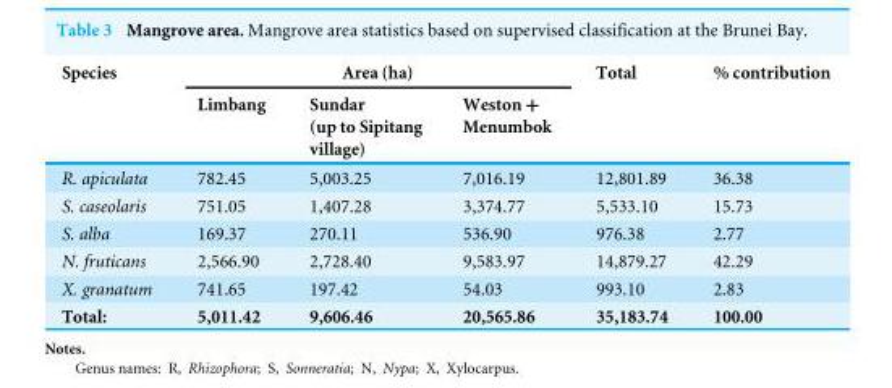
<table><thead><tr><td rowspan="2">Species</td><td colspan="3">Area (ha)</td><td rowspan="2">Total</td><td rowspan="2">% contribution</td></tr><tr><td>Limbang</td><td>Sundar (up to Sipitang village)</td><td>Weston + Menumbok</td></tr></thead><tbody><tr><td>R. apiculata</td><td>782.45</td><td>5,003.25</td><td>7,016.19</td><td>12,801.89</td><td>36.38</td></tr><tr><td>S. caseolaris</td><td>751.05</td><td>1,407.28</td><td>3,374.77</td><td>5,533.10</td><td>15.73</td></tr><tr><td>S. alba</td><td>169.37</td><td>270.11</td><td>536.90</td><td>976.38</td><td>2.77</td></tr><tr><td>N. fruticans</td><td>2,566.90</td><td>2,728.40</td><td>9,583.97</td><td>14,879.27</td><td>42.29</td></tr><tr><td>X. granatum</td><td>741.65</td><td>197.42</td><td>54.03</td><td>993.10</td><td>2.83</td></tr><tr><td>Total:</td><td>5,011.42</td><td>9,606.46</td><td>20,565.86</td><td>35,183.74</td><td>100.00</td></tr></tbody></table>